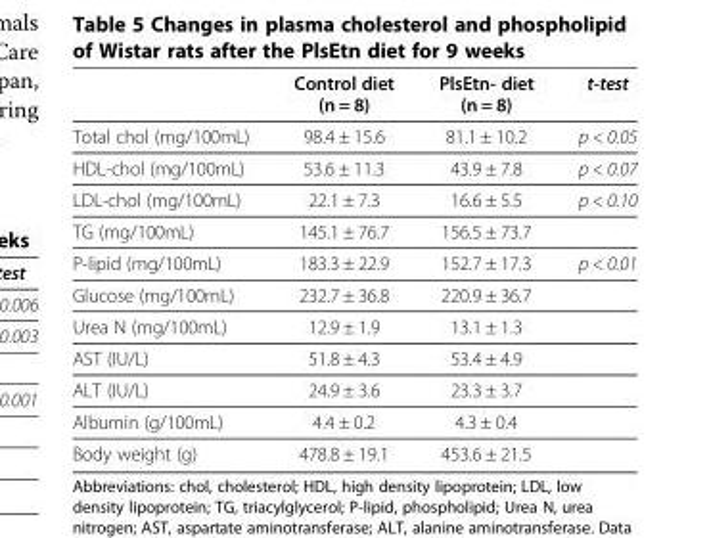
<table><thead><tr><td></td><td>Control diet (n = 8)</td><td>PlsEtn- diet (n = 8)</td><td>t-test</td></tr></thead><tbody><tr><td>Total chol (mg/100mL)</td><td>98.4 ± 15.6</td><td>81.1 ± 10.2</td><td>p &lt; 0.05</td></tr><tr><td>HDL-chol (mg/100mL)</td><td>53.6 ± 11.3</td><td>43.9 ± 7.8</td><td>p &lt; 0.07</td></tr><tr><td>LDL-chol (mg/100mL)</td><td>22.1 ± 7.3</td><td>16.6 ± 5.5</td><td>p &lt; 0.10</td></tr><tr><td>TG (mg/100mL)</td><td>145.1 ± 76.7</td><td>156.5 ± 73.7</td><td></td></tr><tr><td>P-lipid (mg/100mL)</td><td>183.3 ± 22.9</td><td>152.7 ± 17.3</td><td>p &lt; 0.01</td></tr><tr><td>Glucose (mg/100mL)</td><td>232.7 ± 36.8</td><td>220.9 ± 36.7</td><td></td></tr><tr><td>Urea N (mg/100mL)</td><td>12.9 ± 1.9</td><td>13.1 ± 1.3</td><td></td></tr><tr><td>AST (IU/L)</td><td>51.8 ± 4.3</td><td>53.4 ± 4.9</td><td></td></tr><tr><td>ALT (IU/L)</td><td>24.9 ± 3.6</td><td>23.3 ± 3.7</td><td></td></tr><tr><td>Albumin (g/100mL)</td><td>4.4 ± 0.2</td><td>4.3 ± 0.4</td><td></td></tr><tr><td>Body weight (g)</td><td>478.8 ± 19.1</td><td>453.6 ± 21.5</td><td></td></tr></tbody></table>